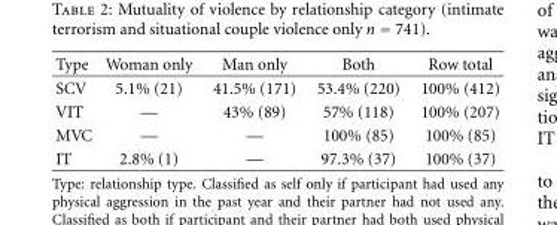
<table><thead><tr><td>Type</td><td>Woman only</td><td>Man only</td><td>Both</td><td>Row total</td></tr></thead><tbody><tr><td>SCV</td><td>5.1% (21)</td><td>41.5% (171)</td><td>53.4% (220)</td><td>100% (412)</td></tr><tr><td>VIT</td><td>—</td><td>43% (89)</td><td>57% (118)</td><td>100% (207)</td></tr><tr><td>MVC</td><td>—</td><td>—</td><td>100% (85)</td><td>100% (85)</td></tr><tr><td>IT</td><td>2.8% (1)</td><td>—</td><td>97.3% (37)</td><td>100% (37)</td></tr></tbody></table>